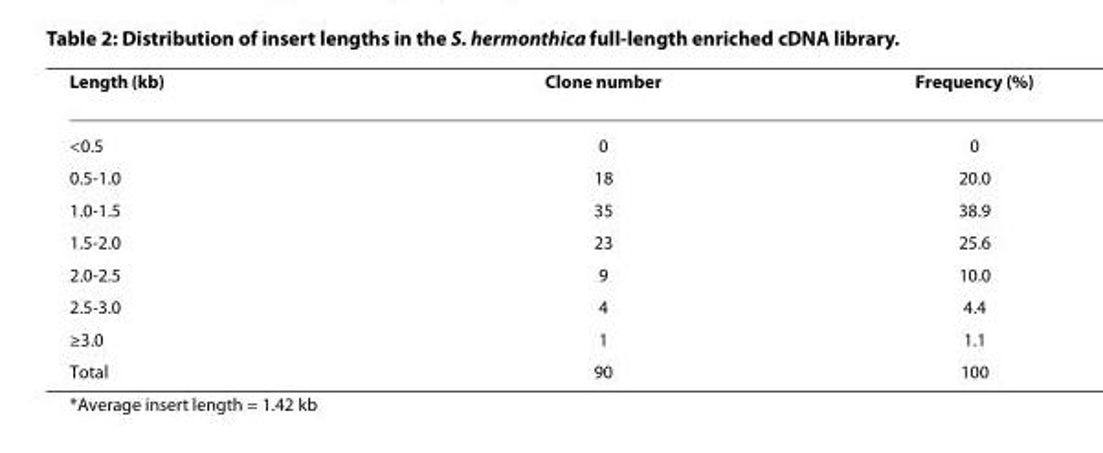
<table><thead><tr><td>Length (kb)</td><td>Clone number</td><td>Frequency (%)</td></tr></thead><tbody><tr><td>&lt;0.5</td><td>0</td><td>0</td></tr><tr><td>0.5-1.0</td><td>18</td><td>20.0</td></tr><tr><td>1.0-1.5</td><td>35</td><td>38.9</td></tr><tr><td>1.5-2.0</td><td>23</td><td>25.6</td></tr><tr><td>2.0-2.5</td><td>9</td><td>10.0</td></tr><tr><td>2.5-3.0</td><td>4</td><td>4.4</td></tr><tr><td>≥3.0</td><td>1</td><td>1.1</td></tr><tr><td>Total</td><td>90</td><td>100</td></tr></tbody></table>